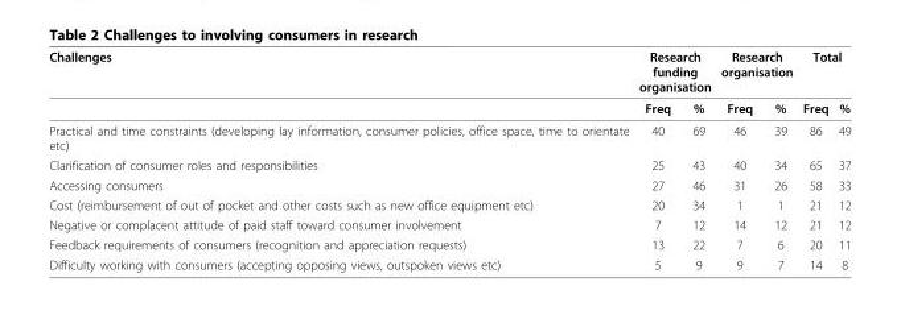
<table><thead><tr><td rowspan="2">Challenges</td><td colspan="2">Research funding organisation</td><td colspan="2">Research organisation</td><td colspan="2">Total</td></tr><tr><td>Freq</td><td>%</td><td>Freq</td><td>%</td><td>Freq</td><td>%</td></tr></thead><tbody><tr><td>Practical and time constraints (developing lay information, consumer policies, office space, time to orientate etc)</td><td>40</td><td>69</td><td>46</td><td>39</td><td>86</td><td>49</td></tr><tr><td>Clarification of consumer roles and responsibilities</td><td>25</td><td>43</td><td>40</td><td>34</td><td>65</td><td>37</td></tr><tr><td>Accessing consumers</td><td>27</td><td>46</td><td>31</td><td>26</td><td>58</td><td>33</td></tr><tr><td>Cost (reimbursement of out of pocket and other costs such as new office equipment etc)</td><td>20</td><td>34</td><td>1</td><td>1</td><td>21</td><td>12</td></tr><tr><td>Negative or complacent attitude of paid staff toward consumer involvement</td><td>7</td><td>12</td><td>14</td><td>12</td><td>21</td><td>12</td></tr><tr><td>Feedback requirements of consumers (recognition and appreciation requests)</td><td>13</td><td>22</td><td>7</td><td>6</td><td>20</td><td>11</td></tr><tr><td>Difficulty working with consumers (accepting opposing views, outspoken views etc)</td><td>5</td><td>9</td><td>9</td><td>7</td><td>14</td><td>8</td></tr></tbody></table>